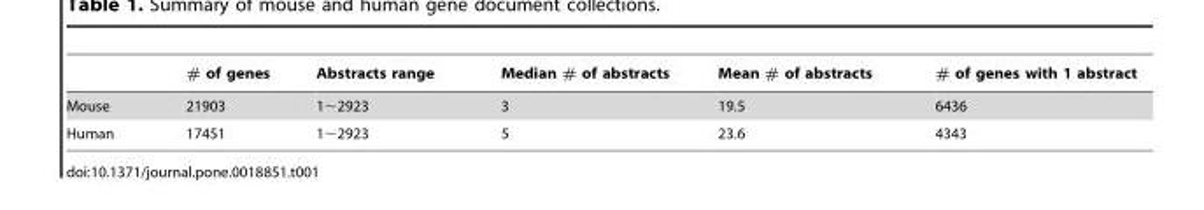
<table><thead><tr><td></td><td># of genes</td><td>Abstracts range</td><td>Median # of abstracts</td><td>Mean # of abstracts</td><td># of genes with 1 abstract</td></tr></thead><tbody><tr><td>Mouse</td><td>21903</td><td>1∼2923</td><td>3</td><td>19.5</td><td>6436</td></tr><tr><td>Human</td><td>17451</td><td>1∼2923</td><td>5</td><td>23.6</td><td>4343</td></tr></tbody></table>